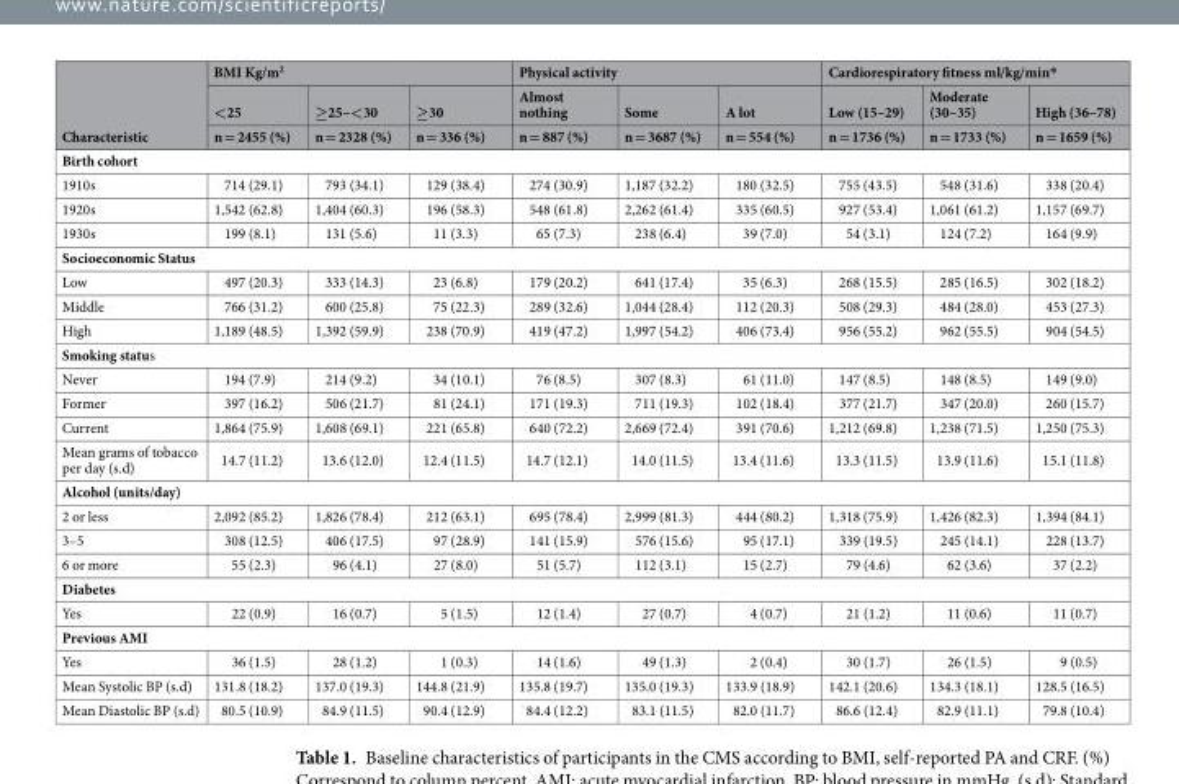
<table><thead><tr><td rowspan="3">Characteristic</td><td colspan="3">BMI Kg/m<sup>2</sup></td><td colspan="3">Physical activity</td><td colspan="3">Cardiorespiratory fitness ml/kg/min*</td></tr><tr><td rowspan="2">&lt;25 n = 2455 (%)</td><td rowspan="2">≥25–&lt;30 n = 2328 (%)</td><td rowspan="2">≥30 n = 336 (%)</td><td rowspan="2">Almost nothing n = 887 (%)</td><td rowspan="2">Some n = 3687 (%)</td><td rowspan="2">A lot n = 554 (%)</td><td rowspan="2">Low (15–29) n = 1736 (%)</td><td rowspan="2">Moderate (30–35) n = 1733 (%)</td><td rowspan="2">High (36–78) n = 1659 (%)</td></tr><tr></tr></thead><tbody><tr><td colspan="10">Birth cohort</td></tr><tr><td>1910s</td><td>714 (29.1)</td><td>793 (34.1)</td><td>129 (38.4)</td><td>274 (30.9)</td><td>1,187 (32.2)</td><td>180 (32.5)</td><td>755 (43.5)</td><td>548 (31.6)</td><td>338 (20.4)</td></tr><tr><td>1920s</td><td>1,542 (62.8)</td><td>1,404 (60.3)</td><td>196 (58.3)</td><td>548 (61.8)</td><td>2,262 (61.4)</td><td>335 (60.5)</td><td>927 (53.4)</td><td>1,061 (61.2)</td><td>1,157 (69.7)</td></tr><tr><td>1930s</td><td>199 (8.1)</td><td>131 (5.6)</td><td>11 (3.3)</td><td>65 (7.3)</td><td>238 (6.4)</td><td>39 (7.0)</td><td>54 (3.1)</td><td>124 (7.2)</td><td>164 (9.9)</td></tr><tr><td colspan="10">Socioeconomic Status</td></tr><tr><td>Low</td><td>497 (20.3)</td><td>333 (14.3)</td><td>23 (6.8)</td><td>179 (20.2)</td><td>641 (17.4)</td><td>35 (6.3)</td><td>268 (15.5)</td><td>285 (16.5)</td><td>302 (18.2)</td></tr><tr><td>Middle</td><td>766 (31.2)</td><td>600 (25.8)</td><td>75 (22.3)</td><td>289 (32.6)</td><td>1,044 (28.4)</td><td>112 (20.3)</td><td>508 (29.3)</td><td>484 (28.0)</td><td>453 (27.3)</td></tr><tr><td>High</td><td>1,189 (48.5)</td><td>1,392 (59.9)</td><td>238 (70.9)</td><td>419 (47.2)</td><td>1,997 (54.2)</td><td>406 (73.4)</td><td>956 (55.2)</td><td>962 (55.5)</td><td>904 (54.5)</td></tr><tr><td colspan="10">Smoking status</td></tr><tr><td>Never</td><td>194 (7.9)</td><td>214 (9.2)</td><td>34 (10.1)</td><td>76 (8.5)</td><td>307 (8.3)</td><td>61 (11.0)</td><td>147 (8.5)</td><td>148 (8.5)</td><td>149 (9.0)</td></tr><tr><td>Former</td><td>397 (16.2)</td><td>506 (21.7)</td><td>81 (24.1)</td><td>171 (19.3)</td><td>711 (19.3)</td><td>102 (18.4)</td><td>377 (21.7)</td><td>347 (20.0)</td><td>260 (15.7)</td></tr><tr><td>Current</td><td>1,864 (75.9)</td><td>1,608 (69.1)</td><td>221 (65.8)</td><td>640 (72.2)</td><td>2,669 (72.4)</td><td>391 (70.6)</td><td>1,212 (69.8)</td><td>1,238 (71.5)</td><td>1,250 (75.3)</td></tr><tr><td>Mean grams of tobacco per day (s.d)</td><td>14.7 (11.2)</td><td>13.6 (12.0)</td><td>12.4 (11.5)</td><td>14.7 (12.1)</td><td>14.0 (11.5)</td><td>13.4 (11.6)</td><td>13.3 (11.5)</td><td>13.9 (11.6)</td><td>15.1 (11.8)</td></tr><tr><td colspan="10">Alcohol (units/day)</td></tr><tr><td>2 or less</td><td>2,092 (85.2)</td><td>1,826 (78.4)</td><td>212 (63.1)</td><td>695 (78.4)</td><td>2,999 (81.3)</td><td>444 (80.2)</td><td>1,318 (75.9)</td><td>1,426 (82.3)</td><td>1,394 (84.1)</td></tr><tr><td>3–5</td><td>308 (12.5)</td><td>406 (17.5)</td><td>97 (28.9)</td><td>141 (15.9)</td><td>576 (15.6)</td><td>95 (17.1)</td><td>339 (19.5)</td><td>245 (14.1)</td><td>228 (13.7)</td></tr><tr><td>6 or more</td><td>55 (2.3)</td><td>96 (4.1)</td><td>27 (8.0)</td><td>51 (5.7)</td><td>112 (3.1)</td><td>15 (2.7)</td><td>79 (4.6)</td><td>62 (3.6)</td><td>37 (2.2)</td></tr><tr><td colspan="10">Diabetes</td></tr><tr><td>Yes</td><td>22 (0.9)</td><td>16 (0.7)</td><td>5 (1.5)</td><td>12 (1.4)</td><td>27 (0.7)</td><td>4 (0.7)</td><td>21 (1.2)</td><td>11 (0.6)</td><td>11 (0.7)</td></tr><tr><td colspan="10">Previous AMI</td></tr><tr><td>Yes</td><td>36 (1.5)</td><td>28 (1.2)</td><td>1 (0.3)</td><td>14 (1.6)</td><td>49 (1.3)</td><td>2 (0.4)</td><td>30 (1.7)</td><td>26 (1.5)</td><td>9 (0.5)</td></tr><tr><td>Mean Systolic BP (s.d)</td><td>131.8 (18.2)</td><td>137.0 (19.3)</td><td>144.8 (21.9)</td><td>135.8 (19.7)</td><td>135.0 (19.3)</td><td>133.9 (18.9)</td><td>142.1 (20.6)</td><td>134.3 (18.1)</td><td>128.5 (16.5)</td></tr><tr><td>Mean Diastolic BP (s.d)</td><td>80.5 (10.9)</td><td>84.9 (11.5)</td><td>90.4 (12.9)</td><td>84.4 (12.2)</td><td>83.1 (11.5)</td><td>82.0 (11.7)</td><td>86.6 (12.4)</td><td>82.9 (11.1)</td><td>79.8 (10.4)</td></tr></tbody></table>